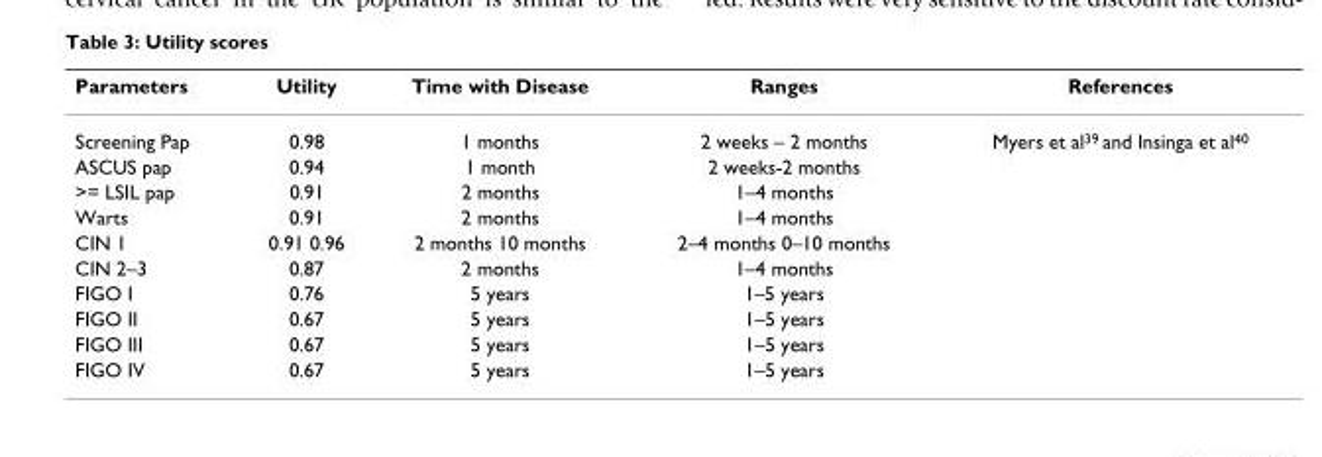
<table><thead><tr><td>Parameters</td><td>Utility</td><td>Time with Disease</td><td>Ranges</td><td>References</td></tr></thead><tbody><tr><td>Screening Pap</td><td>0.98</td><td>1 months</td><td>2 weeks – 2 months</td><td>Myers et al<sup>39</sup> and Insinga et al<sup>40</sup></td></tr><tr><td>ASCUS pap</td><td>0.94</td><td>1 month</td><td>2 weeks-2 months</td><td></td></tr><tr><td>&gt;= LSIL pap</td><td>0.91</td><td>2 months</td><td>1–4 months</td><td></td></tr><tr><td>Warts</td><td>0.91</td><td>2 months</td><td>1–4 months</td><td></td></tr><tr><td>CIN 1</td><td>0.91 0.96</td><td>2 months 10 months</td><td>2–4 months 0–10 months</td><td></td></tr><tr><td>CIN 2–3</td><td>0.87</td><td>2 months</td><td>1–4 months</td><td></td></tr><tr><td>FIGO I</td><td>0.76</td><td>5 years</td><td>1–5 years</td><td></td></tr><tr><td>FIGO II</td><td>0.67</td><td>5 years</td><td>1–5 years</td><td></td></tr><tr><td>FIGO III</td><td>0.67</td><td>5 years</td><td>1–5 years</td><td></td></tr><tr><td>FIGO IV</td><td>0.67</td><td>5 years</td><td>1–5 years</td><td></td></tr></tbody></table>